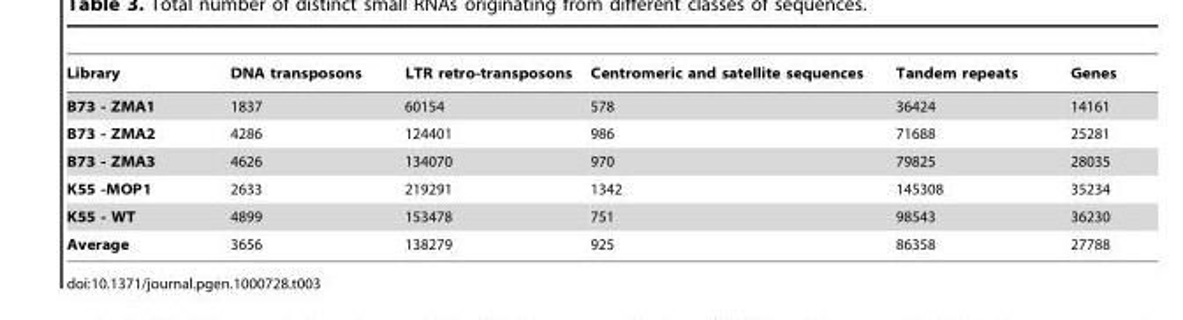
<table><thead><tr><td>Library</td><td>DNA transposons</td><td>LTR retro-transposons</td><td>Centromeric and satellite sequences</td><td>Tandem repeats</td><td>Genes</td></tr></thead><tbody><tr><td>B73 - ZMA1</td><td>1837</td><td>60154</td><td>578</td><td>36424</td><td>14161</td></tr><tr><td>B73 - ZMA2</td><td>4286</td><td>124401</td><td>986</td><td>71688</td><td>25281</td></tr><tr><td>B73 - ZMA3</td><td>4626</td><td>134070</td><td>970</td><td>79825</td><td>28035</td></tr><tr><td>K55 -MOP1</td><td>2633</td><td>219291</td><td>1342</td><td>145308</td><td>35234</td></tr><tr><td>K55 - WT</td><td>4899</td><td>153478</td><td>751</td><td>98543</td><td>36230</td></tr><tr><td>Average</td><td>3656</td><td>138279</td><td>925</td><td>86358</td><td>27788</td></tr></tbody></table>